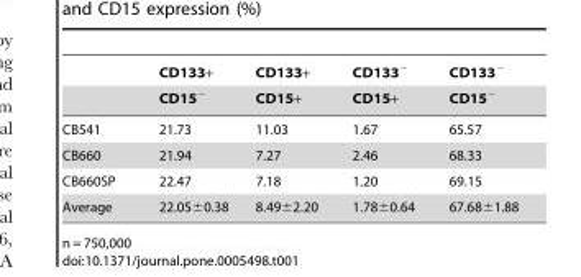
<table><thead><tr><td rowspan="2"></td><td rowspan="2">CD133+ CD15<sup>−</sup></td><td rowspan="2">CD133+ CD15+</td><td rowspan="2">CD133<sup>−</sup> CD15+</td><td rowspan="2">CD133<sup>−</sup> CD15<sup>−</sup></td></tr><tr></tr></thead><tbody><tr><td>CB541</td><td>21.73</td><td>11.03</td><td>1.67</td><td>65.57</td></tr><tr><td>CB660</td><td>21.94</td><td>7.27</td><td>2.46</td><td>68.33</td></tr><tr><td>CB660SP</td><td>22.47</td><td>7.18</td><td>1.20</td><td>69.15</td></tr><tr><td>Average</td><td>22.05±0.38</td><td>8.49±2.20</td><td>1.78±0.64</td><td>67.68±1.88</td></tr></tbody></table>